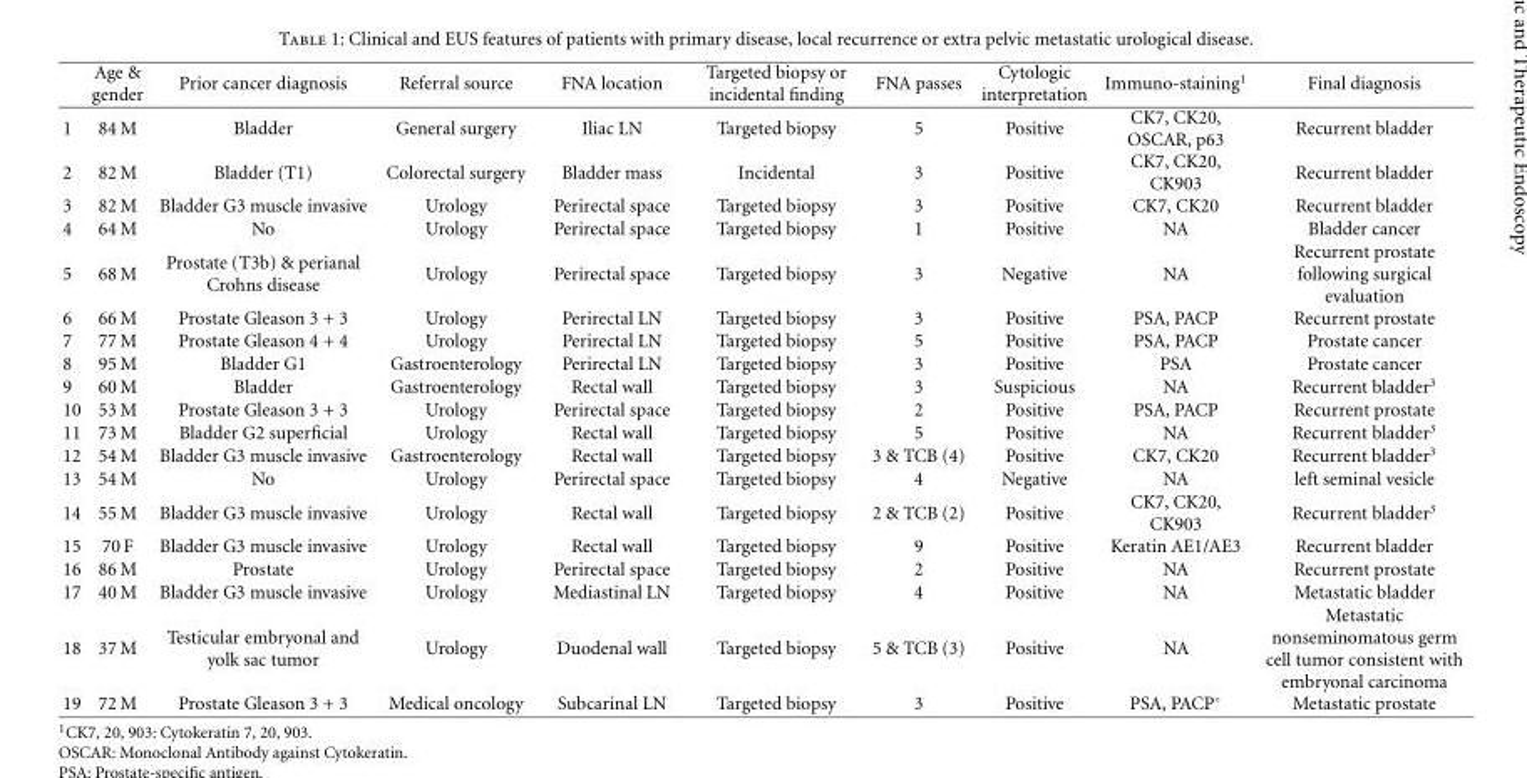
<table><thead><tr><td></td><td>Age &amp; gender</td><td>Prior cancer diagnosis</td><td>Referral source</td><td>FNA location</td><td>Targeted biopsy or incidental finding</td><td>FNA passes</td><td>Cytologic interpretation</td><td>Immuno-staining<sup>1</sup></td><td>Final diagnosis</td></tr></thead><tbody><tr><td>1</td><td>84 M</td><td>Bladder</td><td>General surgery</td><td>Iliac LN</td><td>Targeted biopsy</td><td>5</td><td>Positive</td><td>CK7, CK20, OSCAR, p63</td><td>Recurrent bladder</td></tr><tr><td>2</td><td>82 M</td><td>Bladder (T1)</td><td>Colorectal surgery</td><td>Bladder mass</td><td>Incidental</td><td>3</td><td>Positive</td><td>CK7, CK20, CK903</td><td>Recurrent bladder</td></tr><tr><td>3</td><td>82 M</td><td>Bladder G3 muscle invasive</td><td>Urology</td><td>Perirectal space</td><td>Targeted biopsy</td><td>3</td><td>Positive</td><td>CK7, CK20</td><td>Recurrent bladder</td></tr><tr><td>4</td><td>64 M</td><td>No</td><td>Urology</td><td>Perirectal space</td><td>Targeted biopsy</td><td>1</td><td>Positive</td><td>NA</td><td>Bladder cancer</td></tr><tr><td>5</td><td>68 M</td><td>Prostate (T3b) &amp; perianal Crohns disease</td><td>Urology</td><td>Perirectal space</td><td>Targeted biopsy</td><td>3</td><td>Negative</td><td>NA</td><td>Recurrent prostate following surgical evaluation</td></tr><tr><td>6</td><td>66 M</td><td>Prostate Gleason 3 + 3</td><td>Urology</td><td>Perirectal LN</td><td>Targeted biopsy</td><td>3</td><td>Positive</td><td>PSA, PACP</td><td>Recurrent prostate</td></tr><tr><td>7</td><td>77 M</td><td>Prostate Gleason 4 + 4</td><td>Urology</td><td>Perirectal LN</td><td>Targeted biopsy</td><td>5</td><td>Positive</td><td>PSA, PACP</td><td>Prostate cancer</td></tr><tr><td>8</td><td>95 M</td><td>Bladder G1</td><td>Gastroenterology</td><td>Perirectal LN</td><td>Targeted biopsy</td><td>3</td><td>Positive</td><td>PSA</td><td>Prostate cancer</td></tr><tr><td>9</td><td>60 M</td><td>Bladder</td><td>Gastroenterology</td><td>Rectal wall</td><td>Targeted biopsy</td><td>3</td><td>Suspicious</td><td>NA</td><td>Recurrent bladder<sup>3</sup></td></tr><tr><td>10</td><td>53 M</td><td>Prostate Gleason 3 + 3</td><td>Urology</td><td>Perirectal space</td><td>Targeted biopsy</td><td>2</td><td>Positive</td><td>PSA, PACP</td><td>Recurrent prostate</td></tr><tr><td>11</td><td>73 M</td><td>Bladder G2 superficial</td><td>Urology</td><td>Rectal wall</td><td>Targeted biopsy</td><td>5</td><td>Positive</td><td>NA</td><td>Recurrent bladder<sup>3</sup></td></tr><tr><td>12</td><td>54 M</td><td>Bladder G3 muscle invasive</td><td>Gastroenterology</td><td>Rectal wall</td><td>Targeted biopsy</td><td>3 &amp; TCB (4)</td><td>Positive</td><td>CK7, CK20</td><td>Recurrent bladder<sup>3</sup></td></tr><tr><td>13</td><td>54 M</td><td>No</td><td>Urology</td><td>Perirectal space</td><td>Targeted biopsy</td><td>4</td><td>Negative</td><td>NA</td><td>left seminal vesicle</td></tr><tr><td>14</td><td>55 M</td><td>Bladder G3 muscle invasive</td><td>Urology</td><td>Rectal wall</td><td>Targeted biopsy</td><td>2 &amp; TCB (2)</td><td>Positive</td><td>CK7, CK20, CK903</td><td>Recurrent bladder<sup>3</sup></td></tr><tr><td>15</td><td>70 F</td><td>Bladder G3 muscle invasive</td><td>Urology</td><td>Rectal wall</td><td>Targeted biopsy</td><td>9</td><td>Positive</td><td>Keratin AE1/AE3</td><td>Recurrent bladder</td></tr><tr><td>16</td><td>86 M</td><td>Prostate</td><td>Urology</td><td>Perirectal space</td><td>Targeted biopsy</td><td>2</td><td>Positive</td><td>NA</td><td>Recurrent prostate</td></tr><tr><td>17</td><td>40 M</td><td>Bladder G3 muscle invasive</td><td>Urology</td><td>Mediastinal LN</td><td>Targeted biopsy</td><td>4</td><td>Positive</td><td>NA</td><td>Metastatic bladder</td></tr><tr><td>18</td><td>37 M</td><td>Testicular embryonal and yolk sac tumor</td><td>Urology</td><td>Duodenal wall</td><td>Targeted biopsy</td><td>5 &amp; TCB (3)</td><td>Positive</td><td>NA</td><td>Metastatic nonseminomatous germ cell tumor consistent with embryonal carcinoma</td></tr><tr><td>19</td><td>72 M</td><td>Prostate Gleason 3 + 3</td><td>Medical oncology</td><td>Subcarinal LN</td><td>Targeted biopsy</td><td>3</td><td>Positive</td><td>PSA, PACP◦</td><td>Metastatic prostate</td></tr></tbody></table>